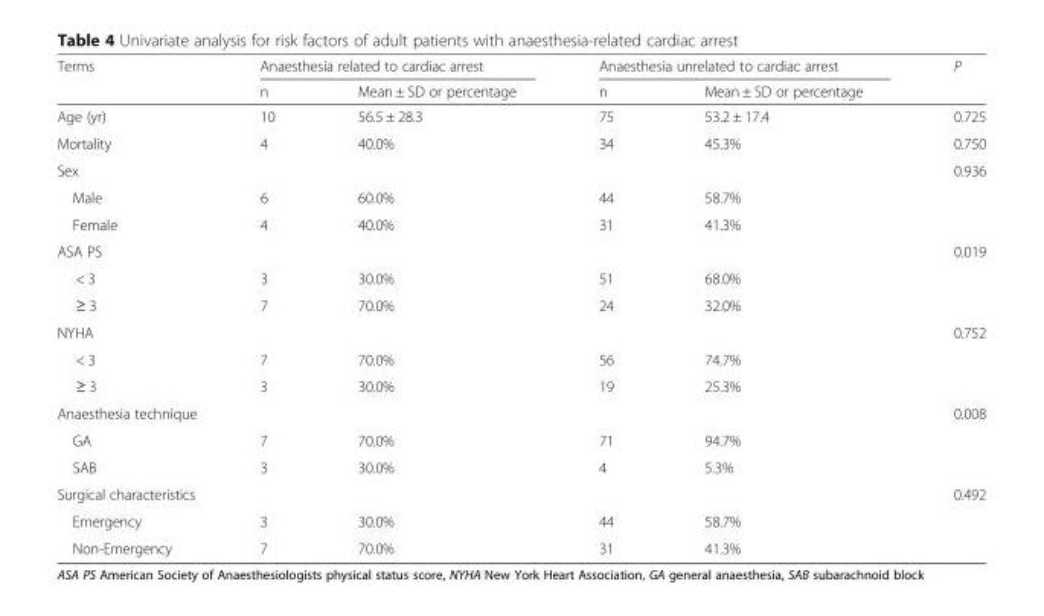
<table><thead><tr><td rowspan="2">Terms</td><td colspan="2">Anaesthesia related to cardiac arrest</td><td colspan="2">Anaesthesia unrelated to cardiac arrest</td><td rowspan="2">P</td></tr><tr><td>n</td><td>Mean ± SD or percentage</td><td>n</td><td>Mean ± SD or percentage</td></tr></thead><tbody><tr><td>Age (yr)</td><td>10</td><td>56.5 ± 28.3</td><td>75</td><td>53.2 ± 17.4</td><td>0.725</td></tr><tr><td>Mortality</td><td>4</td><td>40.0%</td><td>34</td><td>45.3%</td><td>0.750</td></tr><tr><td>Sex</td><td></td><td></td><td></td><td></td><td>0.936</td></tr><tr><td>Male</td><td>6</td><td>60.0%</td><td>44</td><td>58.7%</td><td></td></tr><tr><td>Female</td><td>4</td><td>40.0%</td><td>31</td><td>41.3%</td><td></td></tr><tr><td>ASA PS</td><td></td><td></td><td></td><td></td><td>0.019</td></tr><tr><td>&lt; 3</td><td>3</td><td>30.0%</td><td>51</td><td>68.0%</td><td></td></tr><tr><td>≥ 3</td><td>7</td><td>70.0%</td><td>24</td><td>32.0%</td><td></td></tr><tr><td>NYHA</td><td></td><td></td><td></td><td></td><td>0.752</td></tr><tr><td>&lt; 3</td><td>7</td><td>70.0%</td><td>56</td><td>74.7%</td><td></td></tr><tr><td>≥ 3</td><td>3</td><td>30.0%</td><td>19</td><td>25.3%</td><td></td></tr><tr><td>Anaesthesia technique</td><td></td><td></td><td></td><td></td><td>0.008</td></tr><tr><td>GA</td><td>7</td><td>70.0%</td><td>71</td><td>94.7%</td><td></td></tr><tr><td>SAB</td><td>3</td><td>30.0%</td><td>4</td><td>5.3%</td><td></td></tr><tr><td>Surgical characteristics</td><td></td><td></td><td></td><td></td><td>0.492</td></tr><tr><td>Emergency</td><td>3</td><td>30.0%</td><td>44</td><td>58.7%</td><td></td></tr><tr><td>Non-Emergency</td><td>7</td><td>70.0%</td><td>31</td><td>41.3%</td><td></td></tr></tbody></table>